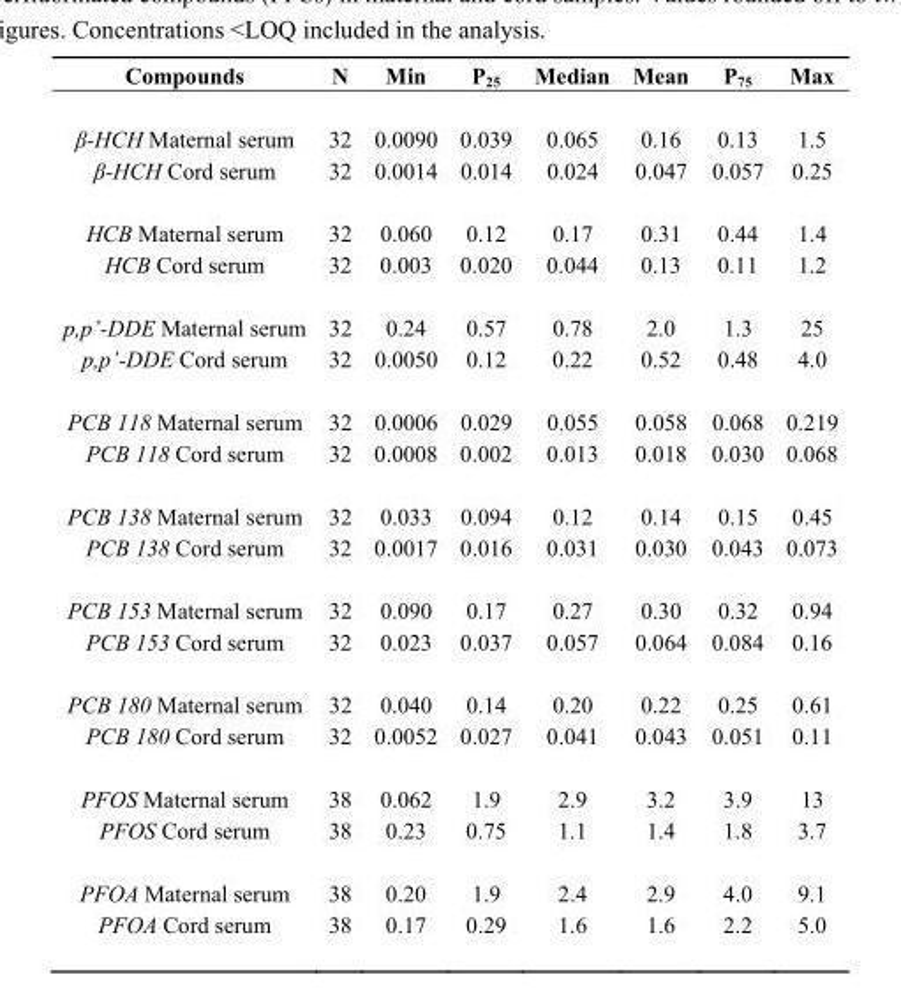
<table><thead><tr><td>Compounds</td><td>N</td><td>Min</td><td>P<sub>25</sub></td><td>Median</td><td>Mean</td><td>P<sub>75</sub></td><td>Max</td></tr></thead><tbody><tr><td>β-HCH Maternal serum</td><td>32</td><td>0.0090</td><td>0.039</td><td>0.065</td><td>0.16</td><td>0.13</td><td>1.5</td></tr><tr><td>β-HCH Cord serum</td><td>32</td><td>0.0014</td><td>0.014</td><td>0.024</td><td>0.047</td><td>0.057</td><td>0.25</td></tr><tr><td>HCB Maternal serum</td><td>32</td><td>0.060</td><td>0.12</td><td>0.17</td><td>0.31</td><td>0.44</td><td>1.4</td></tr><tr><td>HCB Cord serum</td><td>32</td><td>0.003</td><td>0.020</td><td>0.044</td><td>0.13</td><td>0.11</td><td>1.2</td></tr><tr><td>p,p’-DDE Maternal serum</td><td>32</td><td>0.24</td><td>0.57</td><td>0.78</td><td>2.0</td><td>1.3</td><td>25</td></tr><tr><td>p,p’-DDE Cord serum</td><td>32</td><td>0.0050</td><td>0.12</td><td>0.22</td><td>0.52</td><td>0.48</td><td>4.0</td></tr><tr><td>PCB 118 Maternal serum</td><td>32</td><td>0.0006</td><td>0.029</td><td>0.055</td><td>0.058</td><td>0.068</td><td>0.219</td></tr><tr><td>PCB 118 Cord serum</td><td>32</td><td>0.0008</td><td>0.002</td><td>0.013</td><td>0.018</td><td>0.030</td><td>0.068</td></tr><tr><td>PCB 138 Maternal serum</td><td>32</td><td>0.033</td><td>0.094</td><td>0.12</td><td>0.14</td><td>0.15</td><td>0.45</td></tr><tr><td>PCB 138 Cord serum</td><td>32</td><td>0.0017</td><td>0.016</td><td>0.031</td><td>0.030</td><td>0.043</td><td>0.073</td></tr><tr><td>PCB 153 Maternal serum</td><td>32</td><td>0.090</td><td>0.17</td><td>0.27</td><td>0.30</td><td>0.32</td><td>0.94</td></tr><tr><td>PCB 153 Cord serum</td><td>32</td><td>0.023</td><td>0.037</td><td>0.057</td><td>0.064</td><td>0.084</td><td>0.16</td></tr><tr><td>PCB 180 Maternal serum</td><td>32</td><td>0.040</td><td>0.14</td><td>0.20</td><td>0.22</td><td>0.25</td><td>0.61</td></tr><tr><td>PCB 180 Cord serum</td><td>32</td><td>0.0052</td><td>0.027</td><td>0.041</td><td>0.043</td><td>0.051</td><td>0.11</td></tr><tr><td>PFOS Maternal serum</td><td>38</td><td>0.062</td><td>1.9</td><td>2.9</td><td>3.2</td><td>3.9</td><td>13</td></tr><tr><td>PFOS Cord serum</td><td>38</td><td>0.23</td><td>0.75</td><td>1.1</td><td>1.4</td><td>1.8</td><td>3.7</td></tr><tr><td>PFOA Maternal serum</td><td>38</td><td>0.20</td><td>1.9</td><td>2.4</td><td>2.9</td><td>4.0</td><td>9.1</td></tr><tr><td>PFOA Cord serum</td><td>38</td><td>0.17</td><td>0.29</td><td>1.6</td><td>1.6</td><td>2.2</td><td>5.0</td></tr></tbody></table>